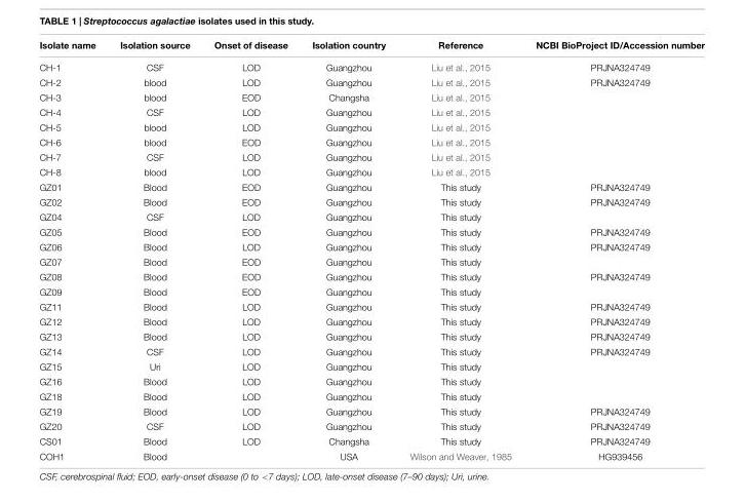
<table><thead><tr><td>Isolate name</td><td>Isolation source</td><td>Onset of disease</td><td>Isolation country</td><td>Reference</td><td>NCBI BioProject ID/Accession number</td></tr></thead><tbody><tr><td>CH-1</td><td>CSF</td><td>LOD</td><td>Guangzhou</td><td>Liu et al., 2015</td><td>PRJNA324749</td></tr><tr><td>CH-2</td><td>blood</td><td>LOD</td><td>Guangzhou</td><td>Liu et al., 2015</td><td>PRJNA324749</td></tr><tr><td>CH-3</td><td>blood</td><td>EOD</td><td>Changsha</td><td>Liu et al., 2015</td><td></td></tr><tr><td>CH-4</td><td>CSF</td><td>LOD</td><td>Guangzhou</td><td>Liu et al., 2015</td><td></td></tr><tr><td>CH-5</td><td>blood</td><td>LOD</td><td>Guangzhou</td><td>Liu et al., 2015</td><td></td></tr><tr><td>CH-6</td><td>blood</td><td>EOD</td><td>Guangzhou</td><td>Liu et al., 2015</td><td></td></tr><tr><td>CH-7</td><td>CSF</td><td>LOD</td><td>Guangzhou</td><td>Liu et al., 2015</td><td></td></tr><tr><td>CH-8</td><td>blood</td><td>LOD</td><td>Guangzhou</td><td>Liu et al., 2015</td><td></td></tr><tr><td>GZ01</td><td>Blood</td><td>EOD</td><td>Guangzhou</td><td>This study</td><td>PRJNA324749</td></tr><tr><td>GZ02</td><td>Blood</td><td>EOD</td><td>Guangzhou</td><td>This study</td><td>PRJNA324749</td></tr><tr><td>GZ04</td><td>CSF</td><td>LOD</td><td>Guangzhou</td><td>This study</td><td></td></tr><tr><td>GZ05</td><td>Blood</td><td>EOD</td><td>Guangzhou</td><td>This study</td><td>PRJNA324749</td></tr><tr><td>GZ06</td><td>Blood</td><td>LOD</td><td>Guangzhou</td><td>This study</td><td>PRJNA324749</td></tr><tr><td>GZ07</td><td>Blood</td><td>EOD</td><td>Guangzhou</td><td>This study</td><td></td></tr><tr><td>GZ08</td><td>Blood</td><td>EOD</td><td>Guangzhou</td><td>This study</td><td>PRJNA324749</td></tr><tr><td>GZ09</td><td>Blood</td><td>EOD</td><td>Guangzhou</td><td>This study</td><td></td></tr><tr><td>GZ11</td><td>Blood</td><td>LOD</td><td>Guangzhou</td><td>This study</td><td>PRJNA324749</td></tr><tr><td>GZ12</td><td>Blood</td><td>LOD</td><td>Guangzhou</td><td>This study</td><td>PRJNA324749</td></tr><tr><td>GZ13</td><td>Blood</td><td>LOD</td><td>Guangzhou</td><td>This study</td><td>PRJNA324749</td></tr><tr><td>GZ14</td><td>CSF</td><td>LOD</td><td>Guangzhou</td><td>This study</td><td>PRJNA324749</td></tr><tr><td>GZ15</td><td>Uri</td><td>LOD</td><td>Guangzhou</td><td>This study</td><td></td></tr><tr><td>GZ16</td><td>Blood</td><td>LOD</td><td>Guangzhou</td><td>This study</td><td></td></tr><tr><td>GZ18</td><td>Blood</td><td>LOD</td><td>Guangzhou</td><td>This study</td><td></td></tr><tr><td>GZ19</td><td>Blood</td><td>LOD</td><td>Guangzhou</td><td>This study</td><td>PRJNA324749</td></tr><tr><td>GZ20</td><td>CSF</td><td>LOD</td><td>Guangzhou</td><td>This study</td><td>PRJNA324749</td></tr><tr><td>CS01</td><td>Blood</td><td>LOD</td><td>Changsha</td><td>This study</td><td>PRJNA324749</td></tr><tr><td>COH1</td><td>Blood</td><td></td><td>USA</td><td>Wilson and Weaver, 1985</td><td>HG939456</td></tr></tbody></table>